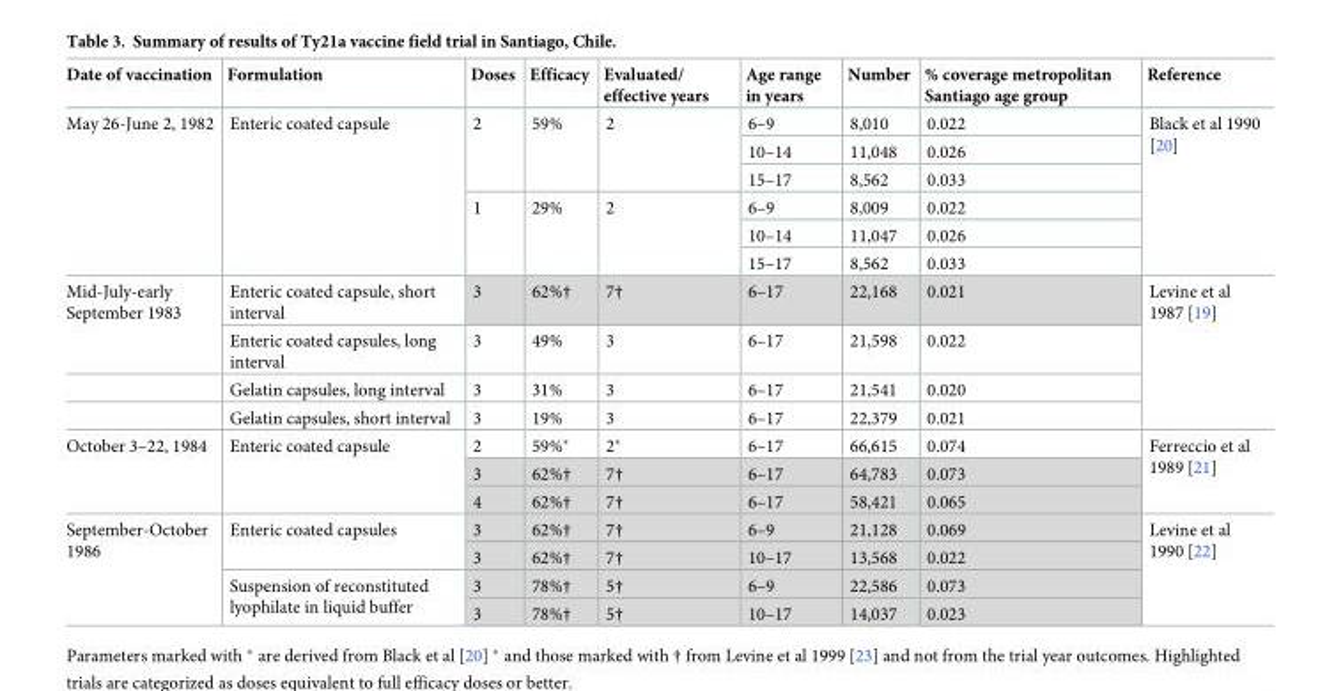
<table><thead><tr><td>Date of vaccination</td><td>Formulation</td><td>Doses</td><td>Efficacy</td><td>Evaluated/ effective years</td><td>Age range in years</td><td>Number</td><td>% coverage metropolitan Santiago age group</td><td>Reference</td></tr></thead><tbody><tr><td rowspan="6">May 26-June 2, 1982</td><td rowspan="6">Enteric coated capsule</td><td rowspan="3">2</td><td rowspan="3">59%</td><td rowspan="3">2</td><td>6–9</td><td>8,010</td><td>0.022</td><td rowspan="6">Black et al 1990 [20]</td></tr><tr><td>10–14</td><td>11,048</td><td>0.026</td></tr><tr><td>15–17</td><td>8,562</td><td>0.033</td></tr><tr><td rowspan="3">1</td><td rowspan="3">29%</td><td rowspan="3">2</td><td>6–9</td><td>8,009</td><td>0.022</td></tr><tr><td>10–14</td><td>11,047</td><td>0.026</td></tr><tr><td>15–17</td><td>8,562</td><td>0.033</td></tr><tr><td rowspan="4">Mid-July-early September 1983</td><td>Enteric coated capsule, short interval</td><td>3</td><td>62%†</td><td>7†</td><td>6–17</td><td>22,168</td><td>0.021</td><td rowspan="4">Levine et al 1987 [19]</td></tr><tr><td>Enteric coated capsules, long interval</td><td>3</td><td>49%</td><td>3</td><td>6–17</td><td>21,598</td><td>0.022</td></tr><tr><td>Gelatin capsules, long interval</td><td>3</td><td>31%</td><td>3</td><td>6–17</td><td>21,541</td><td>0.020</td></tr><tr><td>Gelatin capsules, short interval</td><td>3</td><td>19%</td><td>3</td><td>6–17</td><td>22,379</td><td>0.021</td></tr><tr><td rowspan="3">October 3–22, 1984</td><td rowspan="3">Enteric coated capsule</td><td>2</td><td>59%*</td><td>2*</td><td>6–17</td><td>66,615</td><td>0.074</td><td rowspan="3">Ferreccio et al 1989 [21]</td></tr><tr><td>3</td><td>62%†</td><td>7†</td><td>6–17</td><td>64,783</td><td>0.073</td></tr><tr><td>4</td><td>62%†</td><td>7†</td><td>6–17</td><td>58,421</td><td>0.065</td></tr><tr><td rowspan="4">September-October 1986</td><td rowspan="2">Enteric coated capsules</td><td>3</td><td>62%†</td><td>7†</td><td>6–9</td><td>21,128</td><td>0.069</td><td rowspan="4">Levine et al 1990 [22]</td></tr><tr><td>3</td><td>62%†</td><td>7†</td><td>10–17</td><td>13,568</td><td>0.022</td></tr><tr><td rowspan="2">Suspension of reconstituted lyophilate in liquid buffer</td><td>3</td><td>78%†</td><td>5†</td><td>6–9</td><td>22,586</td><td>0.073</td></tr><tr><td>3</td><td>78%†</td><td>5†</td><td>10–17</td><td>14,037</td><td>0.023</td></tr></tbody></table>